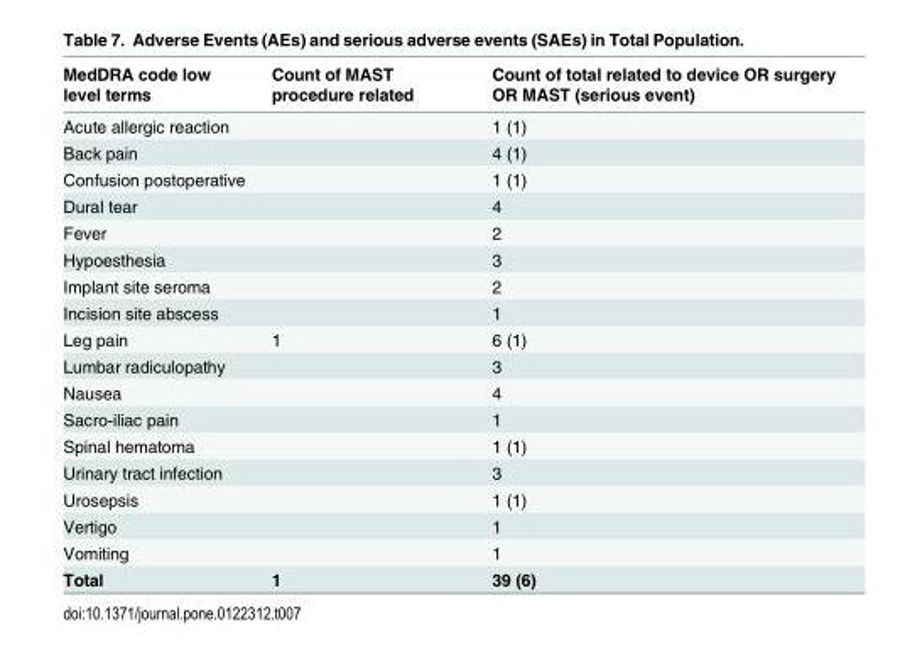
<table><thead><tr><td>MedDRA code low level terms</td><td>Count of MAST procedure related</td><td>Count of total related to device OR surgery OR MAST (serious event)</td></tr></thead><tbody><tr><td>Acute allergic reaction</td><td></td><td>1 (1)</td></tr><tr><td>Back pain</td><td></td><td>4 (1)</td></tr><tr><td>Confusion postoperative</td><td></td><td>1 (1)</td></tr><tr><td>Dural tear</td><td></td><td>4</td></tr><tr><td>Fever</td><td></td><td>2</td></tr><tr><td>Hypoesthesia</td><td></td><td>3</td></tr><tr><td>Implant site seroma</td><td></td><td>2</td></tr><tr><td>Incision site abscess</td><td></td><td>1</td></tr><tr><td>Leg pain</td><td>1</td><td>6 (1)</td></tr><tr><td>Lumbar radiculopathy</td><td></td><td>3</td></tr><tr><td>Nausea</td><td></td><td>4</td></tr><tr><td>Sacro-iliac pain</td><td></td><td>1</td></tr><tr><td>Spinal hematoma</td><td></td><td>1 (1)</td></tr><tr><td>Urinary tract infection</td><td></td><td>3</td></tr><tr><td>Urosepsis</td><td></td><td>1 (1)</td></tr><tr><td>Vertigo</td><td></td><td>1</td></tr><tr><td>Vomiting</td><td></td><td>1</td></tr><tr><td>Total</td><td>1</td><td>39 (6)</td></tr></tbody></table>